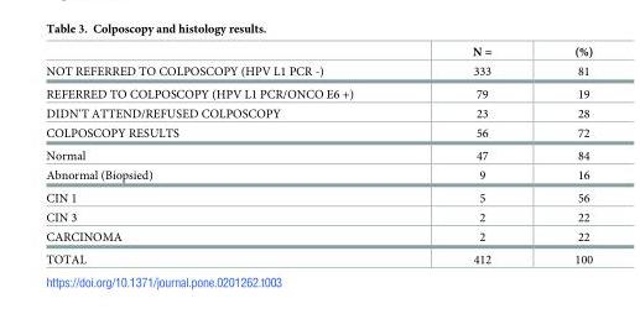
<table><thead><tr><td></td><td>N =</td><td>(%)</td></tr></thead><tbody><tr><td>NOT REFERRED TO COLPOSCOPY (HPV L1 PCR -)</td><td>333</td><td>81</td></tr><tr><td>REFERRED TO COLPOSCOPY (HPV L1 PCR/ONCO E6 +)</td><td>79</td><td>19</td></tr><tr><td>DIDN‘T ATTEND/REFUSED COLPOSCOPY</td><td>23</td><td>28</td></tr><tr><td>COLPOSCOPY RESULTS</td><td>56</td><td>72</td></tr><tr><td>Normal</td><td>47</td><td>84</td></tr><tr><td>Abnormal (Biopsied)</td><td>9</td><td>16</td></tr><tr><td>CIN 1</td><td>5</td><td>56</td></tr><tr><td>CIN 3</td><td>2</td><td>22</td></tr><tr><td>CARCINOMA</td><td>2</td><td>22</td></tr><tr><td>TOTAL</td><td>412</td><td>100</td></tr></tbody></table>